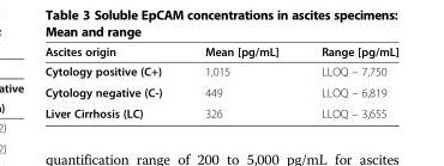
<table><thead><tr><td>Ascites origin</td><td>Mean [pg/mL]</td><td>Range [pg/mL]</td></tr></thead><tbody><tr><td>Cytology positive (C+)</td><td>1,015</td><td>LLOQ – 7,750</td></tr><tr><td>Cytology negative (C-)</td><td>449</td><td>LLOQ – 6,819</td></tr><tr><td>Liver Cirrhosis (LC)</td><td>326</td><td>LLOQ – 3,655</td></tr></tbody></table>